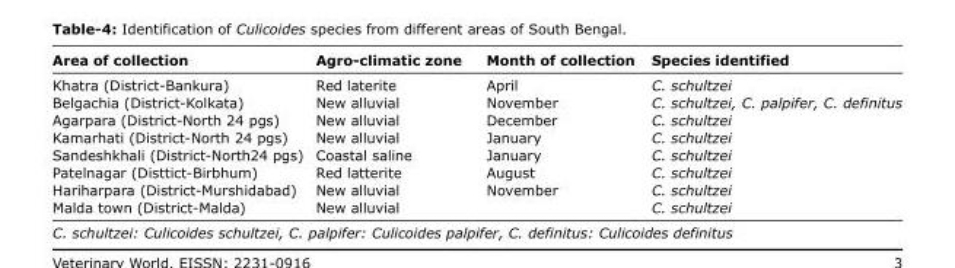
<table><thead><tr><td>Area of collection</td><td>Agro-climatic zone</td><td>Month of collection</td><td>Species identified</td></tr></thead><tbody><tr><td>Khatra (District-Bankura)</td><td>Red laterite</td><td>April</td><td>C. schultzei</td></tr><tr><td>Belgachia (District-Kolkata)</td><td>New alluvial</td><td>November</td><td>C. schultzei, C. palpifer, C. definitus</td></tr><tr><td>Agarpara (District-North 24 pgs)</td><td>New alluvial</td><td>December</td><td>C. schultzei</td></tr><tr><td>Kamarhati (District-North 24 pgs)</td><td>New alluvial</td><td>January</td><td>C. schultzei</td></tr><tr><td>Sandeshkhali (District-North24 pgs)</td><td>Coastal saline</td><td>January</td><td>C. schultzei</td></tr><tr><td>Patelnagar (Disttict-Birbhum)</td><td>Red latterite</td><td>August</td><td>C. schultzei</td></tr><tr><td>Hariharpara (District-Murshidabad)</td><td>New alluvial</td><td>November</td><td>C. schultzei</td></tr><tr><td>Malda town (District-Malda)</td><td>New alluvial</td><td></td><td>C. schultzei</td></tr></tbody></table>